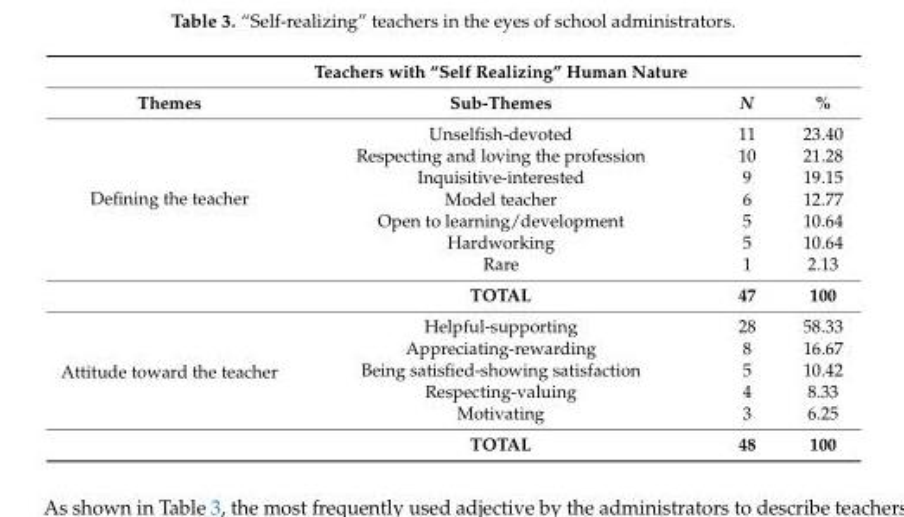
<table><thead><tr><td rowspan="2">Themes</td><td rowspan="2">Teachers with “Self Realizing” Human Nature Sub-Themes</td><td rowspan="2">N</td><td rowspan="2">%</td></tr><tr></tr></thead><tbody><tr><td rowspan="8">Defining the teacher</td><td>Unselfish-devoted</td><td>11</td><td>23.40</td></tr><tr><td>Respecting and loving the profession</td><td>10</td><td>21.28</td></tr><tr><td>Inquisitive-interested</td><td>9</td><td>19.15</td></tr><tr><td>Model teacher</td><td>6</td><td>12.77</td></tr><tr><td>Open to learning/development</td><td>5</td><td>10.64</td></tr><tr><td>Hardworking</td><td>5</td><td>10.64</td></tr><tr><td>Rare</td><td>1</td><td>2.13</td></tr><tr><td>TOTAL</td><td>47</td><td>100</td></tr><tr><td rowspan="6">Attitude toward the teacher</td><td>Helpful-supporting</td><td>28</td><td>58.33</td></tr><tr><td>Appreciating-rewarding</td><td>8</td><td>16.67</td></tr><tr><td>Being satisfied-showing satisfaction</td><td>5</td><td>10.42</td></tr><tr><td>Respecting-valuing</td><td>4</td><td>8.33</td></tr><tr><td>Motivating</td><td>3</td><td>6.25</td></tr><tr><td>TOTAL</td><td>48</td><td>100</td></tr></tbody></table>